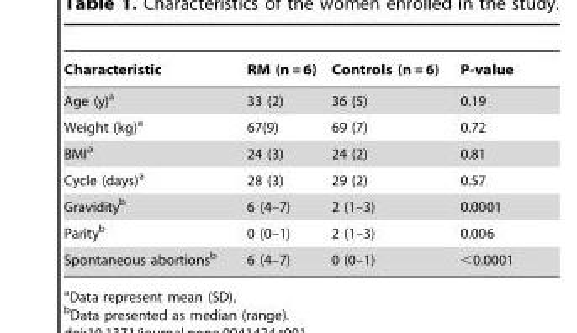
<table><thead><tr><td>Characteristic</td><td>RM (n = 6)</td><td>Controls (n = 6)</td><td>P-value</td></tr></thead><tbody><tr><td>Age (y)<sup>a</sup></td><td>33 (2)</td><td>36 (5)</td><td>0.19</td></tr><tr><td>Weight (kg)<sup>a</sup></td><td>67(9)</td><td>69 (7)</td><td>0.72</td></tr><tr><td>BMI<sup>a</sup></td><td>24 (3)</td><td>24 (2)</td><td>0.81</td></tr><tr><td>Cycle (days)<sup>a</sup></td><td>28 (3)</td><td>29 (2)</td><td>0.57</td></tr><tr><td>Gravidity<sup>b</sup></td><td>6 (4–7)</td><td>2 (1–3)</td><td>0.0001</td></tr><tr><td>Parity<sup>b</sup></td><td>0 (0–1)</td><td>2 (1–3)</td><td>0.006</td></tr><tr><td>Spontaneous abortions<sup>b</sup></td><td>6 (4–7)</td><td>0 (0–1)</td><td>&lt;0.0001</td></tr></tbody></table>